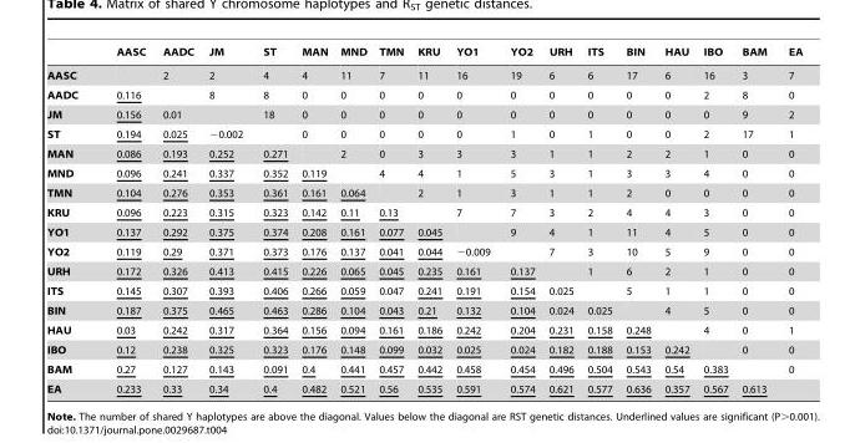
<table><thead><tr><td></td><td>AASC</td><td>AADC</td><td>JM</td><td>ST</td><td>MAN</td><td>MND</td><td>TMN</td><td>KRU</td><td>YO1</td><td>YO2</td><td>URH</td><td>ITS</td><td>BIN</td><td>HAU</td><td>IBO</td><td>BAM</td><td>EA</td></tr></thead><tbody><tr><td>AASC</td><td></td><td>2</td><td>2</td><td>4</td><td>4</td><td>11</td><td>7</td><td>11</td><td>16</td><td>19</td><td>6</td><td>6</td><td>17</td><td>6</td><td>16</td><td>3</td><td>7</td></tr><tr><td>AADC</td><td>0.116</td><td></td><td>8</td><td>8</td><td>0</td><td>0</td><td>0</td><td>0</td><td>0</td><td>0</td><td>0</td><td>0</td><td>0</td><td>0</td><td>2</td><td>8</td><td>0</td></tr><tr><td>JM</td><td>0.156</td><td>0.01</td><td></td><td>18</td><td>0</td><td>0</td><td>0</td><td>0</td><td>0</td><td>0</td><td>0</td><td>0</td><td>0</td><td>0</td><td>0</td><td>9</td><td>2</td></tr><tr><td>ST</td><td>0.194</td><td>0.025</td><td>−0.002</td><td></td><td>0</td><td>0</td><td>0</td><td>0</td><td>0</td><td>1</td><td>0</td><td>1</td><td>0</td><td>0</td><td>2</td><td>17</td><td>1</td></tr><tr><td>MAN</td><td>0.086</td><td>0.193</td><td>0.252</td><td>0.271</td><td></td><td>2</td><td>0</td><td>3</td><td>3</td><td>3</td><td>1</td><td>1</td><td>2</td><td>2</td><td>1</td><td>0</td><td>0</td></tr><tr><td>MND</td><td>0.096</td><td>0.241</td><td>0.337</td><td>0.352</td><td>0.119</td><td></td><td>4</td><td>4</td><td>1</td><td>5</td><td>3</td><td>1</td><td>3</td><td>3</td><td>4</td><td>0</td><td>0</td></tr><tr><td>TMN</td><td>0.104</td><td>0.276</td><td>0.353</td><td>0.361</td><td>0.161</td><td>0.064</td><td></td><td>2</td><td>1</td><td>3</td><td>1</td><td>1</td><td>2</td><td>0</td><td>0</td><td>0</td><td>0</td></tr><tr><td>KRU</td><td>0.096</td><td>0.223</td><td>0.315</td><td>0.323</td><td>0.142</td><td>0.11</td><td>0.13</td><td></td><td>7</td><td>7</td><td>3</td><td>2</td><td>4</td><td>4</td><td>3</td><td>0</td><td>0</td></tr><tr><td>YO1</td><td>0.137</td><td>0.292</td><td>0.375</td><td>0.374</td><td>0.208</td><td>0.161</td><td>0.077</td><td>0.045</td><td></td><td>9</td><td>4</td><td>1</td><td>11</td><td>4</td><td>5</td><td>0</td><td>0</td></tr><tr><td>YO2</td><td>0.119</td><td>0.29</td><td>0.371</td><td>0.373</td><td>0.176</td><td>0.137</td><td>0.041</td><td>0.044</td><td>−0.009</td><td></td><td>7</td><td>3</td><td>10</td><td>5</td><td>9</td><td>0</td><td>0</td></tr><tr><td>URH</td><td>0.172</td><td>0.326</td><td>0.413</td><td>0.415</td><td>0.226</td><td>0.065</td><td>0.045</td><td>0.235</td><td>0.161</td><td>0.137</td><td></td><td>1</td><td>6</td><td>2</td><td>1</td><td>0</td><td>0</td></tr><tr><td>ITS</td><td>0.145</td><td>0.307</td><td>0.393</td><td>0.406</td><td>0.266</td><td>0.059</td><td>0.047</td><td>0.241</td><td>0.191</td><td>0.154</td><td>0.025</td><td></td><td>5</td><td>1</td><td>1</td><td>0</td><td>0</td></tr><tr><td>BIN</td><td>0.187</td><td>0.375</td><td>0.465</td><td>0.463</td><td>0.286</td><td>0.104</td><td>0.043</td><td>0.21</td><td>0.132</td><td>0.104</td><td>0.024</td><td>0.025</td><td></td><td>4</td><td>5</td><td>0</td><td>0</td></tr><tr><td>HAU</td><td>0.03</td><td>0.242</td><td>0.317</td><td>0.364</td><td>0.156</td><td>0.094</td><td>0.161</td><td>0.186</td><td>0.242</td><td>0.204</td><td>0.231</td><td>0.158</td><td>0.248</td><td></td><td>4</td><td>0</td><td>1</td></tr><tr><td>IBO</td><td>0.12</td><td>0.238</td><td>0.325</td><td>0.323</td><td>0.176</td><td>0.148</td><td>0.099</td><td>0.032</td><td>0.025</td><td>0.024</td><td>0.182</td><td>0.188</td><td>0.153</td><td>0.242</td><td></td><td>0</td><td>0</td></tr><tr><td>BAM</td><td>0.27</td><td>0.127</td><td>0.143</td><td>0.091</td><td>0.4</td><td>0.441</td><td>0.457</td><td>0.442</td><td>0.458</td><td>0.454</td><td>0.496</td><td>0.504</td><td>0.543</td><td>0.54</td><td>0.383</td><td></td><td>0</td></tr><tr><td>EA</td><td>0.233</td><td>0.33</td><td>0.34</td><td>0.4</td><td>0.482</td><td>0.521</td><td>0.56</td><td>0.535</td><td>0.591</td><td>0.574</td><td>0.621</td><td>0.577</td><td>0.636</td><td>0.357</td><td>0.567</td><td>0.613</td><td></td></tr></tbody></table>